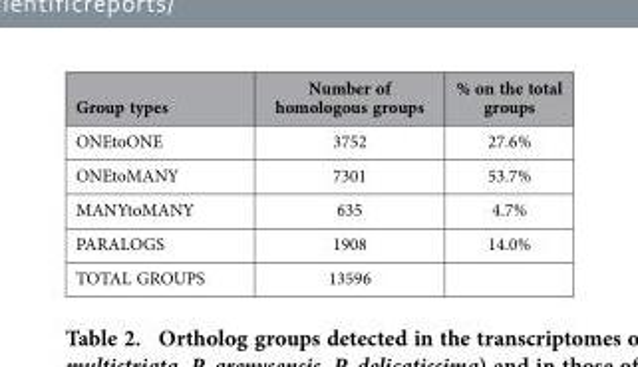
<table><thead><tr><td>Group types</td><td>Number of homologous groups</td><td>% on the total groups</td></tr></thead><tbody><tr><td>ONEtoONE</td><td>3752</td><td>27.6%</td></tr><tr><td>ONEtoMANY</td><td>7301</td><td>53.7%</td></tr><tr><td>MANYtoMANY</td><td>635</td><td>4.7%</td></tr><tr><td>PARALOGS</td><td>1908</td><td>14.0%</td></tr><tr><td>TOTAL GROUPS</td><td>13596</td><td></td></tr></tbody></table>